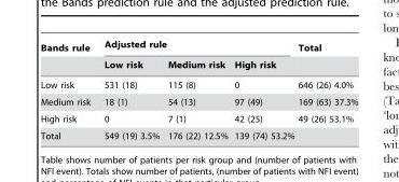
<table><thead><tr><td rowspan="2">Bands rule</td><td colspan="3">Adjusted rule</td><td rowspan="2">Total</td></tr><tr><td>Low risk</td><td>Medium risk</td><td>High risk</td></tr></thead><tbody><tr><td>Low risk</td><td>531 (18)</td><td>115 (8)</td><td>0</td><td>646 (26) 4.0%</td></tr><tr><td>Medium risk</td><td>18 (1)</td><td>54 (13)</td><td>97 (49)</td><td>169 (63) 37.3%</td></tr><tr><td>High risk</td><td>0</td><td>7 (1)</td><td>42 (25)</td><td>49 (26) 53.1%</td></tr><tr><td>Total</td><td>549 (19) 3.5%</td><td>176 (22) 12.5%</td><td>139 (74) 53.2%</td><td></td></tr></tbody></table>